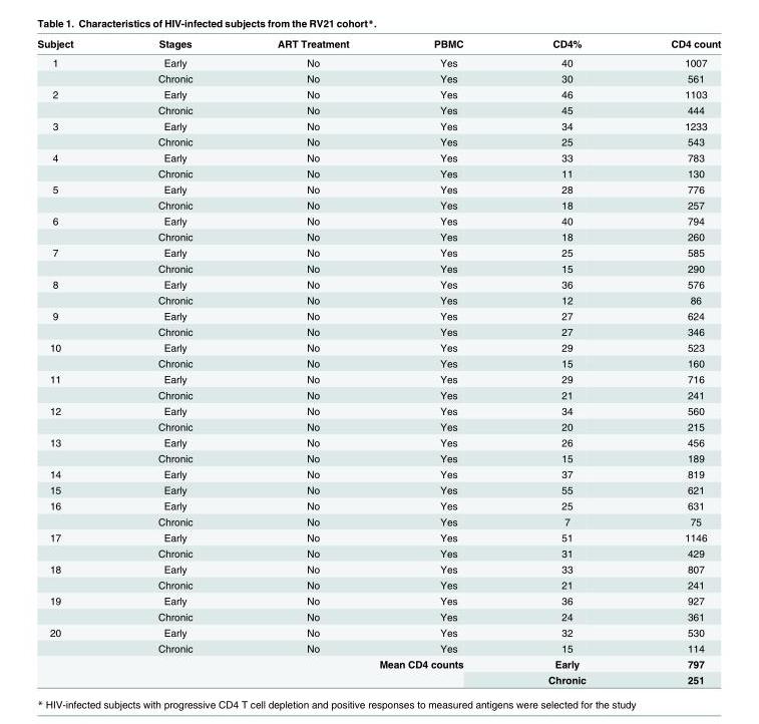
<table><thead><tr><td>Subject</td><td>Stages</td><td>ART Treatment</td><td>PBMC</td><td>CD4%</td><td>CD4 count</td></tr></thead><tbody><tr><td rowspan="2">1</td><td>Early</td><td>No</td><td>Yes</td><td>40</td><td>1007</td></tr><tr><td>Chronic</td><td>No</td><td>Yes</td><td>30</td><td>561</td></tr><tr><td rowspan="2">2</td><td>Early</td><td>No</td><td>Yes</td><td>46</td><td>1103</td></tr><tr><td>Chronic</td><td>No</td><td>Yes</td><td>45</td><td>444</td></tr><tr><td rowspan="2">3</td><td>Early</td><td>No</td><td>Yes</td><td>34</td><td>1233</td></tr><tr><td>Chronic</td><td>No</td><td>Yes</td><td>25</td><td>543</td></tr><tr><td rowspan="2">4</td><td>Early</td><td>No</td><td>Yes</td><td>33</td><td>783</td></tr><tr><td>Chronic</td><td>No</td><td>Yes</td><td>11</td><td>130</td></tr><tr><td rowspan="2">5</td><td>Early</td><td>No</td><td>Yes</td><td>28</td><td>776</td></tr><tr><td>Chronic</td><td>No</td><td>Yes</td><td>18</td><td>257</td></tr><tr><td rowspan="2">6</td><td>Early</td><td>No</td><td>Yes</td><td>40</td><td>794</td></tr><tr><td>Chronic</td><td>No</td><td>Yes</td><td>18</td><td>260</td></tr><tr><td rowspan="2">7</td><td>Early</td><td>No</td><td>Yes</td><td>25</td><td>585</td></tr><tr><td>Chronic</td><td>No</td><td>Yes</td><td>15</td><td>290</td></tr><tr><td rowspan="2">8</td><td>Early</td><td>No</td><td>Yes</td><td>36</td><td>576</td></tr><tr><td>Chronic</td><td>No</td><td>Yes</td><td>12</td><td>86</td></tr><tr><td rowspan="2">9</td><td>Early</td><td>No</td><td>Yes</td><td>27</td><td>624</td></tr><tr><td>Chronic</td><td>No</td><td>Yes</td><td>27</td><td>346</td></tr><tr><td rowspan="2">10</td><td>Early</td><td>No</td><td>Yes</td><td>29</td><td>523</td></tr><tr><td>Chronic</td><td>No</td><td>Yes</td><td>15</td><td>160</td></tr><tr><td rowspan="2">11</td><td>Early</td><td>No</td><td>Yes</td><td>29</td><td>716</td></tr><tr><td>Chronic</td><td>No</td><td>Yes</td><td>21</td><td>241</td></tr><tr><td rowspan="2">12</td><td>Early</td><td>No</td><td>Yes</td><td>34</td><td>560</td></tr><tr><td>Chronic</td><td>No</td><td>Yes</td><td>20</td><td>215</td></tr><tr><td rowspan="2">13</td><td>Early</td><td>No</td><td>Yes</td><td>26</td><td>456</td></tr><tr><td>Chronic</td><td>No</td><td>Yes</td><td>15</td><td>189</td></tr><tr><td>14</td><td>Early</td><td>No</td><td>Yes</td><td>37</td><td>819</td></tr><tr><td>15</td><td>Early</td><td>No</td><td>Yes</td><td>55</td><td>621</td></tr><tr><td rowspan="2">16</td><td>Early</td><td>No</td><td>Yes</td><td>25</td><td>631</td></tr><tr><td>Chronic</td><td>No</td><td>Yes</td><td>7</td><td>75</td></tr><tr><td rowspan="2">17</td><td>Early</td><td>No</td><td>Yes</td><td>51</td><td>1146</td></tr><tr><td>Chronic</td><td>No</td><td>Yes</td><td>31</td><td>429</td></tr><tr><td rowspan="2">18</td><td>Early</td><td>No</td><td>Yes</td><td>33</td><td>807</td></tr><tr><td>Chronic</td><td>No</td><td>Yes</td><td>21</td><td>241</td></tr><tr><td rowspan="2">19</td><td>Early</td><td>No</td><td>Yes</td><td>36</td><td>927</td></tr><tr><td>Chronic</td><td>No</td><td>Yes</td><td>24</td><td>361</td></tr><tr><td rowspan="2">20</td><td>Early</td><td>No</td><td>Yes</td><td>32</td><td>530</td></tr><tr><td>Chronic</td><td>No</td><td>Yes</td><td>15</td><td>114</td></tr><tr><td rowspan="2" colspan="4">Mean CD4 counts</td><td>Early</td><td>797</td></tr><tr><td>Chronic</td><td>251</td></tr></tbody></table>